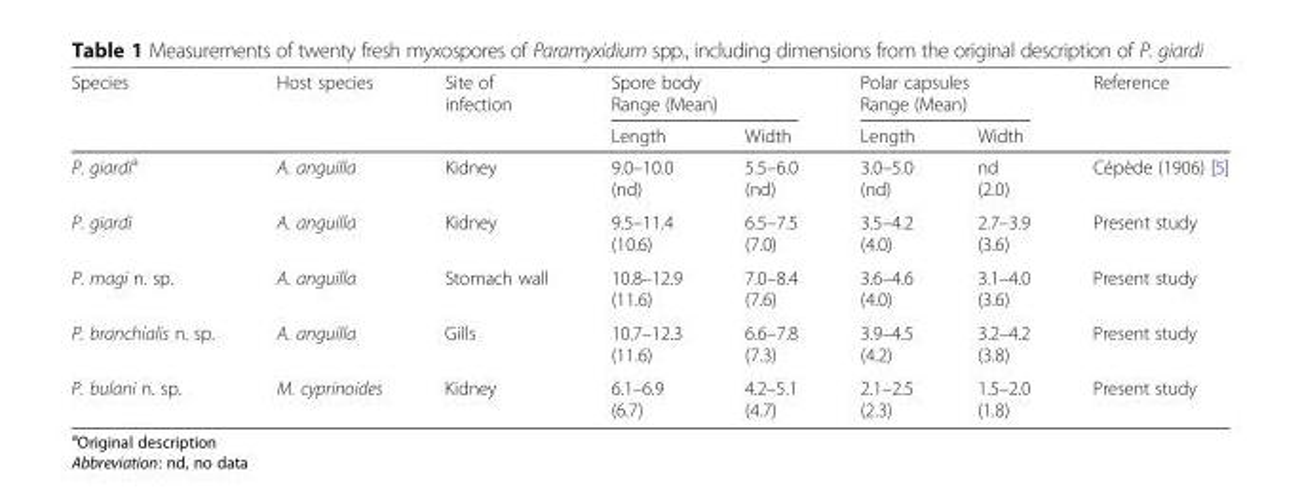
<table><thead><tr><td rowspan="2">Species</td><td rowspan="2">Host species</td><td rowspan="2">Site of infection</td><td colspan="2">Spore body Range (Mean)</td><td colspan="2">Polar capsules Range (Mean)</td><td rowspan="2">Reference</td></tr><tr><td>Length</td><td>Width</td><td>Length</td><td>Width</td></tr></thead><tbody><tr><td>P. giardi<sup>a</sup></td><td>A. anguilla</td><td>Kidney</td><td>9.0–10.0 (nd)</td><td>5.5–6.0 (nd)</td><td>3.0–5.0 (nd)</td><td>nd (2.0)</td><td>Cépède (1906) [5]</td></tr><tr><td>P. giardi</td><td>A. anguilla</td><td>Kidney</td><td>9.5–11.4 (10.6)</td><td>6.5–7.5 (7.0)</td><td>3.5–4.2 (4.0)</td><td>2.7–3.9 (3.6)</td><td>Present study</td></tr><tr><td>P. magi n. sp.</td><td>A. anguilla</td><td>Stomach wall</td><td>10.8–12.9 (11.6)</td><td>7.0–8.4 (7.6)</td><td>3.6–4.6 (4.0)</td><td>3.1–4.0 (3.6)</td><td>Present study</td></tr><tr><td>P. branchialis n. sp.</td><td>A. anguilla</td><td>Gills</td><td>10.7–12.3 (11.6)</td><td>6.6–7.8 (7.3)</td><td>3.9–4.5 (4.2)</td><td>3.2–4.2 (3.8)</td><td>Present study</td></tr><tr><td>P. bulani n. sp.</td><td>M. cyprinoides</td><td>Kidney</td><td>6.1–6.9 (6.7)</td><td>4.2–5.1 (4.7)</td><td>2.1–2.5 (2.3)</td><td>1.5–2.0 (1.8)</td><td>Present study</td></tr></tbody></table>